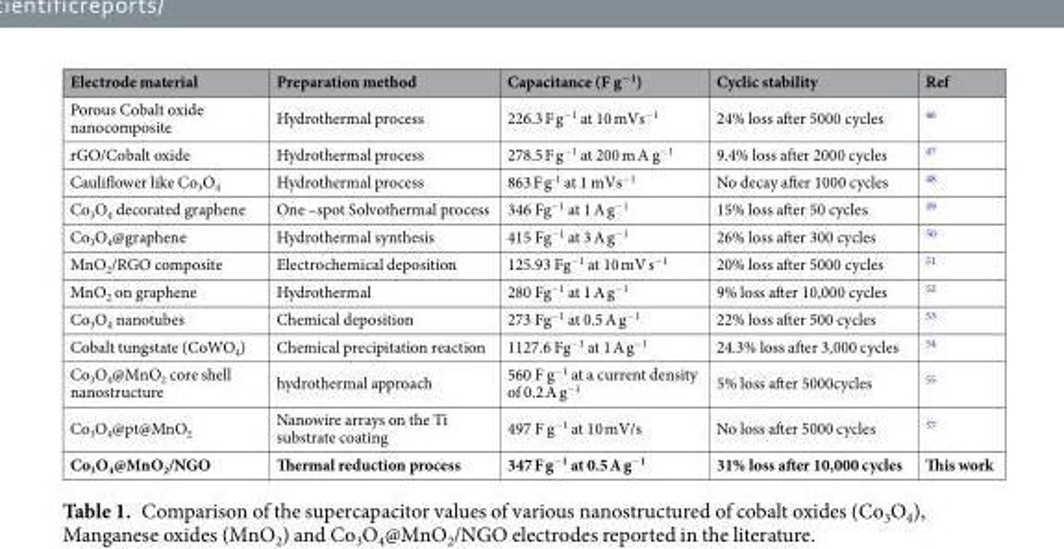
<table><thead><tr><td>Electrode material</td><td>Preparation method</td><td>Capacitance (F g<sup>−1</sup>)</td><td>Cyclic stability</td><td>Ref</td></tr></thead><tbody><tr><td>Porous Cobalt oxide nanocomposite</td><td>Hydrothermal process</td><td>226.3 F g<sup>−1</sup> at 10 mVs<sup>−1</sup></td><td>24% loss after 5000 cycles</td><td><sup>46</sup></td></tr><tr><td>rGO/Cobalt oxide</td><td>Hydrothermal process</td><td>278.5 F g<sup>−1</sup> at 200 m A g<sup>−1</sup></td><td>9.4% loss after 2000 cycles</td><td><sup>47</sup></td></tr><tr><td>Cauliflower like Co<sub>3</sub>O<sub>4</sub></td><td>Hydrothermal process</td><td>863 F g<sup>-1</sup> at 1 mVs<sup>−1</sup></td><td>No decay after 1000 cycles</td><td><sup>48</sup></td></tr><tr><td>Co<sub>3</sub>O<sub>4</sub> decorated graphene</td><td>One –spot Solvothermal process</td><td>346 Fg<sup>−1</sup> at 1 A g<sup>−1</sup></td><td>15% loss after 50 cycles</td><td><sup>49</sup></td></tr><tr><td>Co<sub>3</sub>O<sub>4</sub>@graphene</td><td>Hydrothermal synthesis</td><td>415 Fg<sup>−1</sup> at 3 A g<sup>−1</sup></td><td>26% loss after 300 cycles</td><td><sup>50</sup></td></tr><tr><td>MnO<sub>2</sub>/RGO composite</td><td>Electrochemical deposition</td><td>125.93 Fg<sup>−1</sup> at 10 mV s<sup>−1</sup></td><td>20% loss after 5000 cycles</td><td><sup>51</sup></td></tr><tr><td>MnO<sub>2</sub> on graphene</td><td>Hydrothermal</td><td>280 Fg<sup>−1</sup> at 1 A g<sup>−1</sup></td><td>9% loss after 10,000 cycles</td><td><sup>52</sup></td></tr><tr><td>Co<sub>3</sub>O<sub>4</sub> nanotubes</td><td>Chemical deposition</td><td>273 Fg<sup>−1</sup> at 0.5 A g<sup>−1</sup></td><td>22% loss after 500 cycles</td><td><sup>53</sup></td></tr><tr><td>Cobalt tungstate (CoWO<sub>4</sub>)</td><td>Chemical precipitation reaction</td><td>1127.6 Fg<sup>−1</sup> at 1 A g<sup>−1</sup></td><td>24.3% loss after 3,000 cycles</td><td><sup>54</sup></td></tr><tr><td>Co<sub>3</sub>O<sub>4</sub>@MnO<sub>2</sub> core shell nanostructure</td><td>hydrothermal approach</td><td>560 F g<sup>−1</sup> at a current density of 0.2 A g<sup>−1</sup></td><td>5% loss after 5000cycles</td><td><sup>55</sup></td></tr><tr><td>Co<sub>3</sub>O<sub>4</sub>@pt@MnO<sub>2</sub></td><td>Nanowire arrays on the Ti substrate coating</td><td>497 F g<sup>−1</sup> at 10 mV/s</td><td>No loss after 5000 cycles</td><td><sup>57</sup></td></tr><tr><td>Co<sub>3</sub>O<sub>4</sub>@MnO<sub>2</sub>/NGO</td><td>Thermal reduction process</td><td>347 F g<sup>−1</sup> at 0.5 A g<sup>−1</sup></td><td>31% loss after 10,000 cycles</td><td>This work</td></tr></tbody></table>